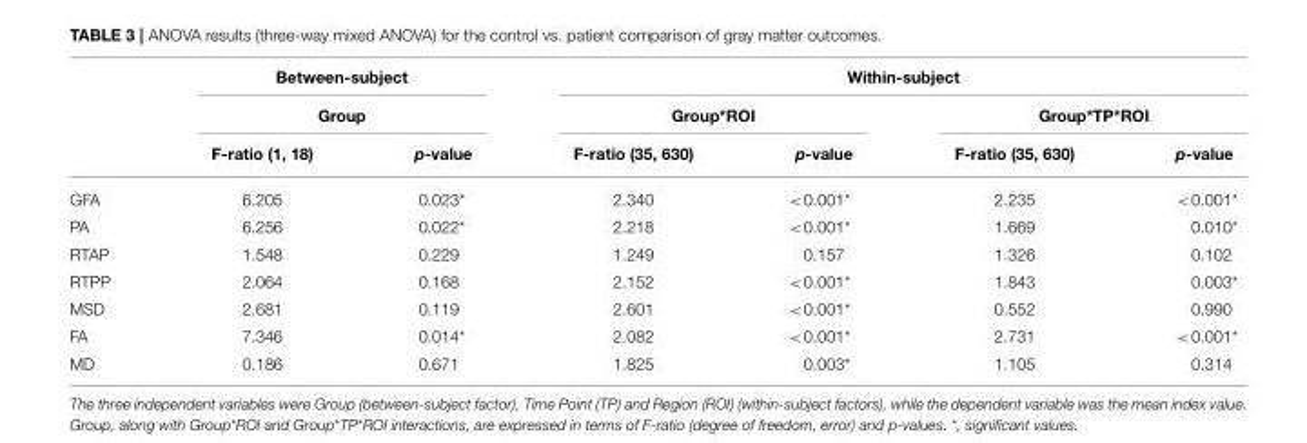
<table><thead><tr><td rowspan="3"></td><td rowspan="2" colspan="2">Between-subject Group</td><td colspan="4">Within-subject</td></tr><tr><td colspan="2">Group*ROI</td><td colspan="2">Group*TP*ROI</td></tr><tr><td>F-ratio (1, 18)</td><td>p-value</td><td>F-ratio (35, 630)</td><td>p-value</td><td>F-ratio (35, 630)</td><td>p-value</td></tr></thead><tbody><tr><td>GFA</td><td>6.205</td><td>0.023*</td><td>2.340</td><td>&lt;0.001*</td><td>2.235</td><td>&lt;0.001*</td></tr><tr><td>PA</td><td>6.256</td><td>0.022*</td><td>2.218</td><td>&lt;0.001*</td><td>1.669</td><td>0.010*</td></tr><tr><td>RTAP</td><td>1.548</td><td>0.229</td><td>1.249</td><td>0.157</td><td>1.326</td><td>0.102</td></tr><tr><td>RTPP</td><td>2.064</td><td>0.168</td><td>2.152</td><td>&lt;0.001*</td><td>1.843</td><td>0.003*</td></tr><tr><td>MSD</td><td>2.681</td><td>0.119</td><td>2.601</td><td>&lt;0.001*</td><td>0.552</td><td>0.990</td></tr><tr><td>FA</td><td>7.346</td><td>0.014*</td><td>2.082</td><td>&lt;0.001*</td><td>2.731</td><td>&lt;0.001*</td></tr><tr><td>MD</td><td>0.186</td><td>0.671</td><td>1.825</td><td>0.003*</td><td>1.105</td><td>0.314</td></tr></tbody></table>